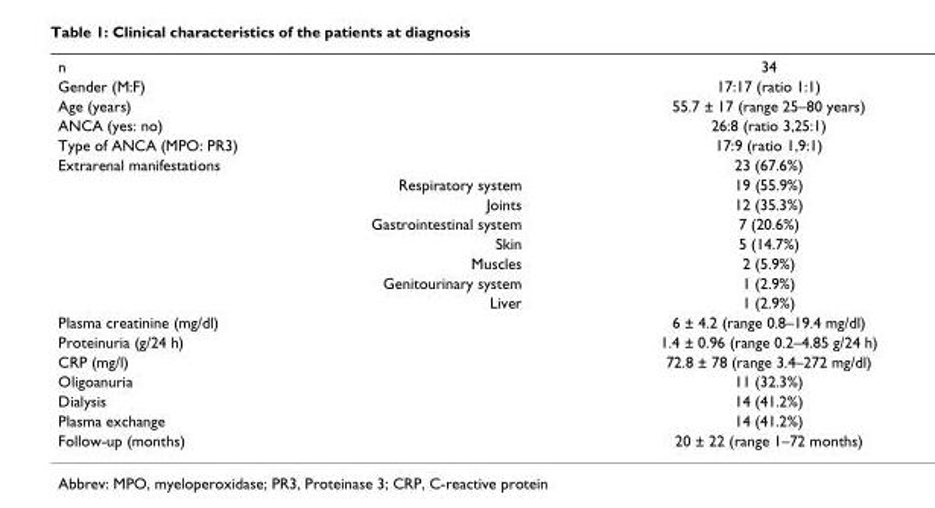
<table><tbody><tr><td>n</td><td>34</td></tr><tr><td>Gender (M:F)</td><td>17:17 (ratio 1:1)</td></tr><tr><td>Age (years)</td><td>55.7 ± 17 (range 25–80 years)</td></tr><tr><td>ANCA (yes: no)</td><td>26:8 (ratio 3,25:1)</td></tr><tr><td>Type of ANCA (MPO: PR3)</td><td>17:9 (ratio 1,9:1)</td></tr><tr><td>Extrarenal manifestations</td><td>23 (67.6%)</td></tr><tr><td>Respiratory system</td><td>19 (55.9%)</td></tr><tr><td>Joints</td><td>12 (35.3%)</td></tr><tr><td>Gastrointestinal system</td><td>7 (20.6%)</td></tr><tr><td>Skin</td><td>5 (14.7%)</td></tr><tr><td>Muscles</td><td>2 (5.9%)</td></tr><tr><td>Genitourinary system</td><td>1 (2.9%)</td></tr><tr><td>Liver</td><td>1 (2.9%)</td></tr><tr><td>Plasma creatinine (mg/dl)</td><td>6 ± 4.2 (range 0.8–19.4 mg/dl)</td></tr><tr><td>Proteinuria (g/24 h)</td><td>1.4 ± 0.96 (range 0.2–4.85 g/24 h)</td></tr><tr><td>CRP (mg/l)</td><td>72.8 ± 78 (range 3.4–272 mg/dl)</td></tr><tr><td>Oligoanuria</td><td>11 (32.3%)</td></tr><tr><td>Dialysis</td><td>14 (41.2%)</td></tr><tr><td>Plasma exchange</td><td>14 (41.2%)</td></tr><tr><td>Follow-up (months)</td><td>20 ± 22 (range 1–72 months)</td></tr></tbody></table>